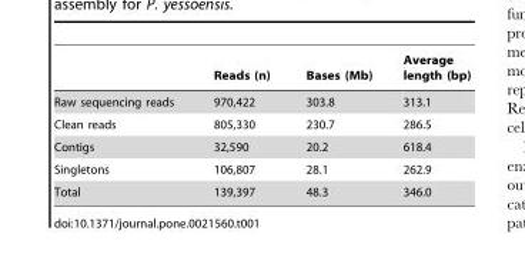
<table><thead><tr><td></td><td>Reads (n)</td><td>Bases (Mb)</td><td>Average length (bp)</td></tr></thead><tbody><tr><td>Raw sequencing reads</td><td>970,422</td><td>303.8</td><td>313.1</td></tr><tr><td>Clean reads</td><td>805,330</td><td>230.7</td><td>286.5</td></tr><tr><td>Contigs</td><td>32,590</td><td>20.2</td><td>618.4</td></tr><tr><td>Singletons</td><td>106,807</td><td>28.1</td><td>262.9</td></tr><tr><td>Total</td><td>139,397</td><td>48.3</td><td>346.0</td></tr></tbody></table>